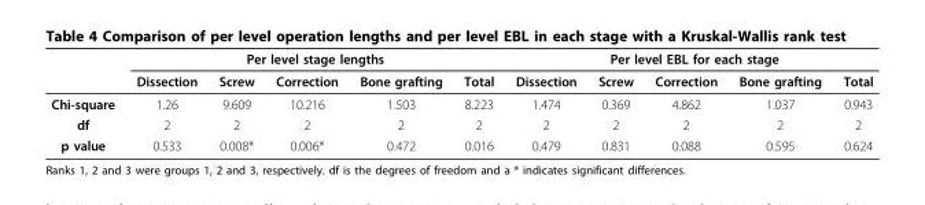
<table><thead><tr><td rowspan="2"></td><td colspan="5">Per level stage lengths</td><td colspan="5">Per level EBL for each stage</td></tr><tr><td>Dissection</td><td>Screw</td><td>Correction</td><td>Bone grafting</td><td>Total</td><td>Dissection</td><td>Screw</td><td>Correction</td><td>Bone grafting</td><td>Total</td></tr></thead><tbody><tr><td>Chi-square</td><td>1.26</td><td>9.609</td><td>10.216</td><td>1.503</td><td>8.223</td><td>1.474</td><td>0.369</td><td>4.862</td><td>1.037</td><td>0.943</td></tr><tr><td>df</td><td>2</td><td>2</td><td>2</td><td>2</td><td>2</td><td>2</td><td>2</td><td>2</td><td>2</td><td>2</td></tr><tr><td>p value</td><td>0.533</td><td>0.008*</td><td>0.006*</td><td>0.472</td><td>0.016</td><td>0.479</td><td>0.831</td><td>0.088</td><td>0.595</td><td>0.624</td></tr></tbody></table>